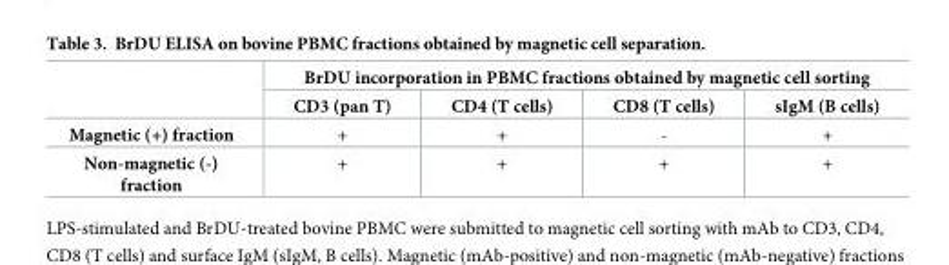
<table><thead><tr><td rowspan="2"></td><td colspan="4">BrDU incorporation in PBMC fractions obtained by magnetic cell sorting</td></tr><tr><td>CD3 (pan T)</td><td>CD4 (T cells)</td><td>CD8 (T cells)</td><td>sIgM (B cells)</td></tr></thead><tbody><tr><td>Magnetic (+) fraction</td><td>+</td><td>+</td><td>-</td><td>+</td></tr><tr><td>Non-magnetic (-) fraction</td><td>+</td><td>+</td><td>+</td><td>+</td></tr></tbody></table>